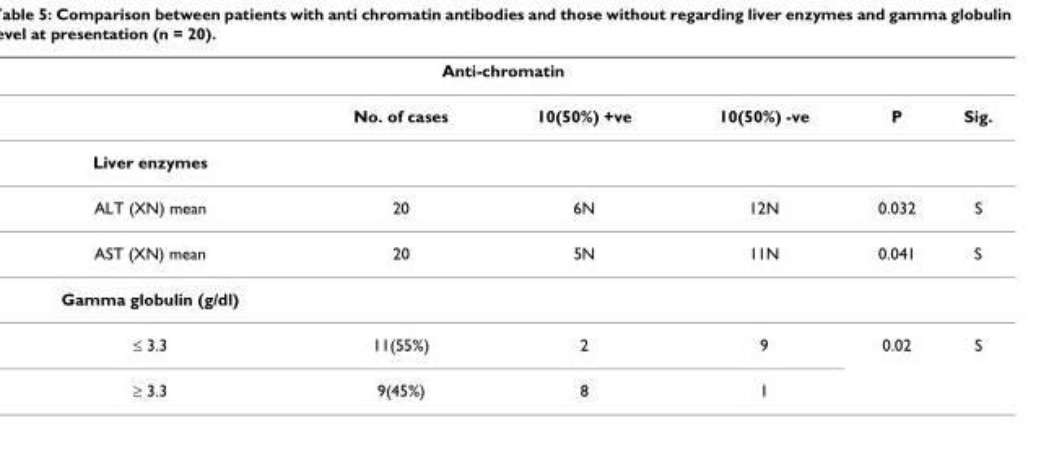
<table><thead><tr><td colspan="6">Anti-chromatin</td></tr><tr><td></td><td>No. of cases</td><td>10(50%) +ve</td><td>10(50%) -ve</td><td>P</td><td>Sig.</td></tr></thead><tbody><tr><td colspan="6">Liver enzymes</td></tr><tr><td>ALT (XN) mean</td><td>20</td><td>6N</td><td>12N</td><td>0.032</td><td>S</td></tr><tr><td>AST (XN) mean</td><td>20</td><td>5N</td><td>11N</td><td>0.041</td><td>S</td></tr><tr><td colspan="6">Gamma globulin (g/dl)</td></tr><tr><td>≤ 3.3</td><td>11(55%)</td><td>2</td><td>9</td><td>0.02</td><td>S</td></tr><tr><td>≥ 3.3</td><td>9(45%)</td><td>8</td><td>1</td><td></td><td></td></tr></tbody></table>